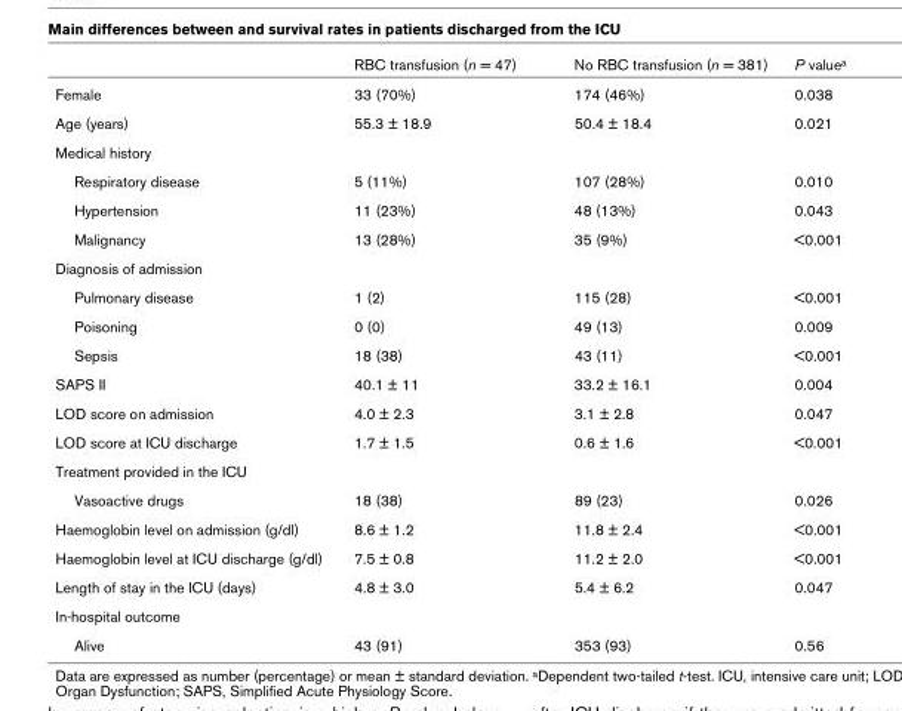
<table><thead><tr><td></td><td>RBC transfusion (n = 47)</td><td>No RBC transfusion (n = 381)</td><td>P valuea</td></tr></thead><tbody><tr><td>Female</td><td>33 (70%)</td><td>174 (46%)</td><td>0.038</td></tr><tr><td>Age (years)</td><td>55.3 ± 18.9</td><td>50.4 ± 18.4</td><td>0.021</td></tr><tr><td colspan="4">Medical history</td></tr><tr><td>Respiratory disease</td><td>5 (11%)</td><td>107 (28%)</td><td>0.010</td></tr><tr><td>Hypertension</td><td>11 (23%)</td><td>48 (13%)</td><td>0.043</td></tr><tr><td>Malignancy</td><td>13 (28%)</td><td>35 (9%)</td><td>&lt;0.001</td></tr><tr><td colspan="4">Diagnosis of admission</td></tr><tr><td>Pulmonary disease</td><td>1 (2)</td><td>115 (28)</td><td>&lt;0.001</td></tr><tr><td>Poisoning</td><td>0 (0)</td><td>49 (13)</td><td>0.009</td></tr><tr><td>Sepsis</td><td>18 (38)</td><td>43 (11)</td><td>&lt;0.001</td></tr><tr><td>SAPS II</td><td>40.1 ± 11</td><td>33.2 ± 16.1</td><td>0.004</td></tr><tr><td>LOD score on admission</td><td>4.0 ± 2.3</td><td>3.1 ± 2.8</td><td>0.047</td></tr><tr><td>LOD score at ICU discharge</td><td>1.7 ± 1.5</td><td>0.6 ± 1.6</td><td>&lt;0.001</td></tr><tr><td colspan="4">Treatment provided in the ICU</td></tr><tr><td>Vasoactive drugs</td><td>18 (38)</td><td>89 (23)</td><td>0.026</td></tr><tr><td>Haemoglobin level on admission (g/dl)</td><td>8.6 ± 1.2</td><td>11.8 ± 2.4</td><td>&lt;0.001</td></tr><tr><td>Haemoglobin level at ICU discharge (g/dl)</td><td>7.5 ± 0.8</td><td>11.2 ± 2.0</td><td>&lt;0.001</td></tr><tr><td>Length of stay in the ICU (days)</td><td>4.8 ± 3.0</td><td>5.4 ± 6.2</td><td>0.047</td></tr><tr><td colspan="4">In-hospital outcome</td></tr><tr><td>Alive</td><td>43 (91)</td><td>353 (93)</td><td>0.56</td></tr></tbody></table>